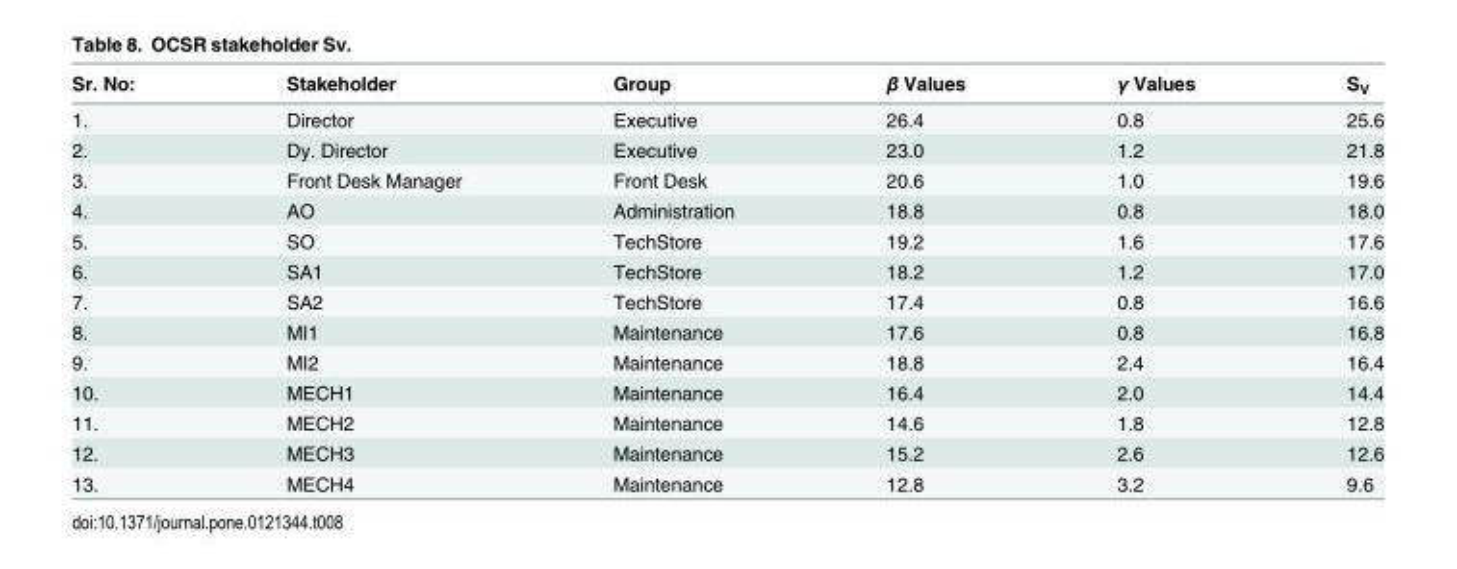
<table><thead><tr><td>Sr. No:</td><td>Stakeholder</td><td>Group</td><td>β Values</td><td>γ Values</td><td>S<sub>V</sub></td></tr></thead><tbody><tr><td>1.</td><td>Director</td><td>Executive</td><td>26.4</td><td>0.8</td><td>25.6</td></tr><tr><td>2.</td><td>Dy. Director</td><td>Executive</td><td>23.0</td><td>1.2</td><td>21.8</td></tr><tr><td>3.</td><td>Front Desk Manager</td><td>Front Desk</td><td>20.6</td><td>1.0</td><td>19.6</td></tr><tr><td>4.</td><td>AO</td><td>Administration</td><td>18.8</td><td>0.8</td><td>18.0</td></tr><tr><td>5.</td><td>SO</td><td>TechStore</td><td>19.2</td><td>1.6</td><td>17.6</td></tr><tr><td>6.</td><td>SA1</td><td>TechStore</td><td>18.2</td><td>1.2</td><td>17.0</td></tr><tr><td>7.</td><td>SA2</td><td>TechStore</td><td>17.4</td><td>0.8</td><td>16.6</td></tr><tr><td>8.</td><td>MI1</td><td>Maintenance</td><td>17.6</td><td>0.8</td><td>16.8</td></tr><tr><td>9.</td><td>MI2</td><td>Maintenance</td><td>18.8</td><td>2.4</td><td>16.4</td></tr><tr><td>10.</td><td>MECH1</td><td>Maintenance</td><td>16.4</td><td>2.0</td><td>14.4</td></tr><tr><td>11.</td><td>MECH2</td><td>Maintenance</td><td>14.6</td><td>1.8</td><td>12.8</td></tr><tr><td>12.</td><td>MECH3</td><td>Maintenance</td><td>15.2</td><td>2.6</td><td>12.6</td></tr><tr><td>13.</td><td>MECH4</td><td>Maintenance</td><td>12.8</td><td>3.2</td><td>9.6</td></tr></tbody></table>